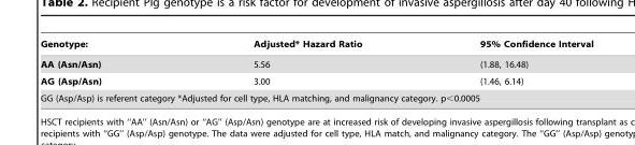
<table><thead><tr><td>Genotype:</td><td>Adjusted* Hazard Ratio</td><td>95% Confidence Interval</td></tr></thead><tbody><tr><td>AA (Asn/Asn)</td><td>5.56</td><td>(1.88, 16.48)</td></tr><tr><td>AG (Asp/Asn)</td><td>3.00</td><td>(1.46, 6.14)</td></tr><tr><td colspan="2">GG (Asp/Asp) is referent category *Adjusted for cell type, HLA matching, and malignancy category. p&lt;0.0005</td><td></td></tr></tbody></table>